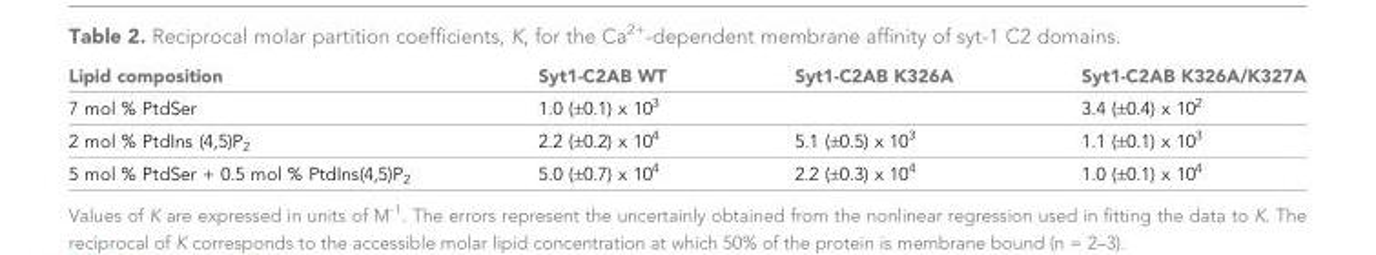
<table><thead><tr><td>Lipid composition</td><td>Syt1-C2AB WT</td><td>Syt1-C2AB K326A</td><td>Syt1-C2AB K326A/K327A</td></tr></thead><tbody><tr><td>7 mol % PtdSer</td><td>1.0 (±0.1) x 10<sup>3</sup></td><td></td><td>3.4 (±0.4) x 10<sup>2</sup></td></tr><tr><td>2 mol % PtdIns (4,5)P<sub>2</sub></td><td>2.2 (±0.2) x 10<sup>4</sup></td><td>5.1 (±0.5) x 10<sup>3</sup></td><td>1.1 (±0.1) x 10<sup>3</sup></td></tr><tr><td>5 mol % PtdSer + 0.5 mol % PtdIns(4,5)P<sub>2</sub></td><td>5.0 (±0.7) x 10<sup>4</sup></td><td>2.2 (±0.3) x 10<sup>4</sup></td><td>1.0 (±0.1) x 10<sup>4</sup></td></tr></tbody></table>